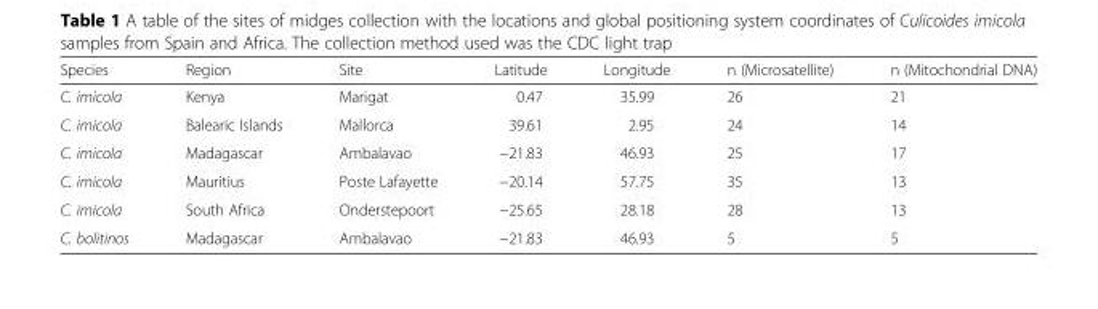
<table><thead><tr><td>Species</td><td>Region</td><td>Site</td><td>Latitude</td><td>Longitude</td><td>n (Microsatellite)</td><td>n (Mitochondrial DNA)</td></tr></thead><tbody><tr><td>C. imicola</td><td>Kenya</td><td>Marigat</td><td>0.47</td><td>35.99</td><td>26</td><td>21</td></tr><tr><td>C. imicola</td><td>Balearic Islands</td><td>Mallorca</td><td>39.61</td><td>2.95</td><td>24</td><td>14</td></tr><tr><td>C. imicola</td><td>Madagascar</td><td>Ambalavao</td><td>−21.83</td><td>46.93</td><td>25</td><td>17</td></tr><tr><td>C. imicola</td><td>Mauritius</td><td>Poste Lafayette</td><td>−20.14</td><td>57.75</td><td>35</td><td>13</td></tr><tr><td>C. imicola</td><td>South Africa</td><td>Onderstepoort</td><td>−25.65</td><td>28.18</td><td>28</td><td>13</td></tr><tr><td>C. bolitinos</td><td>Madagascar</td><td>Ambalavao</td><td>−21.83</td><td>46.93</td><td>5</td><td>5</td></tr></tbody></table>